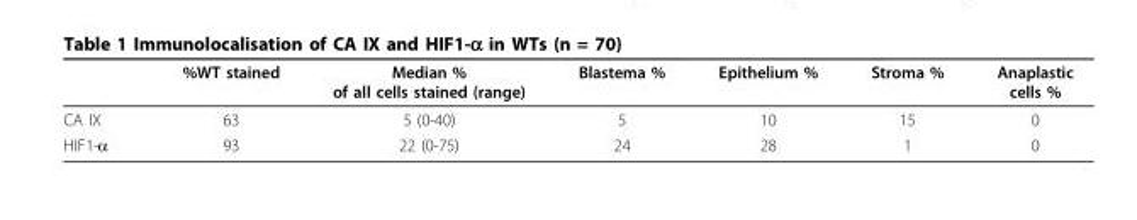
<table><thead><tr><td></td><td>%WT stained</td><td>Median % of all cells stained (range)</td><td>Blastema %</td><td>Epithelium %</td><td>Stroma %</td><td>Anaplastic cells %</td></tr></thead><tbody><tr><td>CA IX</td><td>63</td><td>5 (0-40)</td><td>5</td><td>10</td><td>15</td><td>0</td></tr><tr><td>HIF1-α</td><td>93</td><td>22 (0-75)</td><td>24</td><td>28</td><td>1</td><td>0</td></tr></tbody></table>